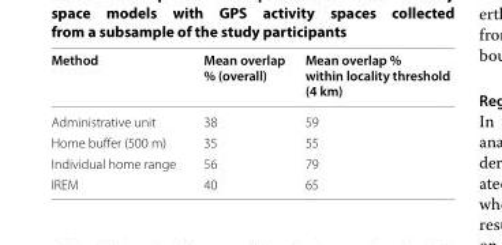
<table><thead><tr><td>Method</td><td>Mean overlap % (overall)</td><td>Mean overlap % within locality threshold (4 km)</td></tr></thead><tbody><tr><td>Administrative unit</td><td>38</td><td>59</td></tr><tr><td>Home buffer (500 m)</td><td>35</td><td>55</td></tr><tr><td>Individual home range</td><td>56</td><td>79</td></tr><tr><td>IREM</td><td>40</td><td>65</td></tr></tbody></table>